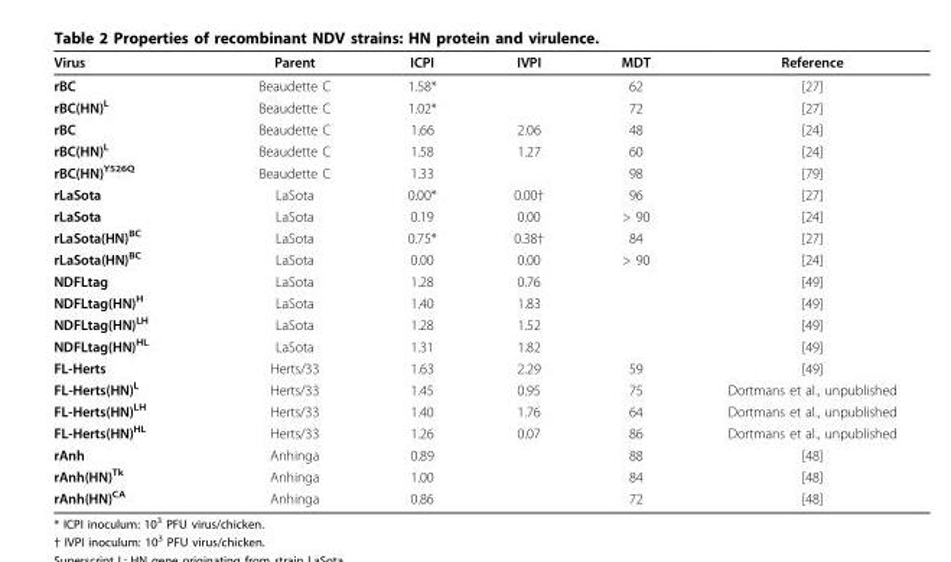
<table><thead><tr><td>Virus</td><td>Parent</td><td>ICPI</td><td>IVPI</td><td>MDT</td><td>Reference</td></tr></thead><tbody><tr><td>rBC</td><td>Beaudette C</td><td>1.58*</td><td></td><td>62</td><td>[27]</td></tr><tr><td>rBC(HN)<sup>L</sup></td><td>Beaudette C</td><td>1.02*</td><td></td><td>72</td><td>[27]</td></tr><tr><td>rBC</td><td>Beaudette C</td><td>1.66</td><td>2.06</td><td>48</td><td>[24]</td></tr><tr><td>rBC(HN)<sup>L</sup></td><td>Beaudette C</td><td>1.58</td><td>1.27</td><td>60</td><td>[24]</td></tr><tr><td>rBC(HN)<sup>Y526Q</sup></td><td>Beaudette C</td><td>1.33</td><td></td><td>98</td><td>[79]</td></tr><tr><td>rLaSota</td><td>LaSota</td><td>0.00*</td><td>0.00†</td><td>96</td><td>[27]</td></tr><tr><td>rLaSota</td><td>LaSota</td><td>0.19</td><td>0.00</td><td>&gt; 90</td><td>[24]</td></tr><tr><td>rLaSota(HN)<sup>BC</sup></td><td>LaSota</td><td>0.75*</td><td>0.38†</td><td>84</td><td>[27]</td></tr><tr><td>rLaSota(HN)<sup>BC</sup></td><td>LaSota</td><td>0.00</td><td>0.00</td><td>&gt; 90</td><td>[24]</td></tr><tr><td>NDFLtag</td><td>LaSota</td><td>1.28</td><td>0.76</td><td></td><td>[49]</td></tr><tr><td>NDFLtag(HN)<sup>H</sup></td><td>LaSota</td><td>1.40</td><td>1.83</td><td></td><td>[49]</td></tr><tr><td>NDFLtag(HN)<sup>LH</sup></td><td>LaSota</td><td>1.28</td><td>1.52</td><td></td><td>[49]</td></tr><tr><td>NDFLtag(HN)<sup>HL</sup></td><td>LaSota</td><td>1.31</td><td>1.82</td><td></td><td>[49]</td></tr><tr><td>FL-Herts</td><td>Herts/33</td><td>1.63</td><td>2.29</td><td>59</td><td>[49]</td></tr><tr><td>FL-Herts(HN)<sup>L</sup></td><td>Herts/33</td><td>1.45</td><td>0.95</td><td>75</td><td>Dortmans et al., unpublished</td></tr><tr><td>FL-Herts(HN)<sup>LH</sup></td><td>Herts/33</td><td>1.40</td><td>1.76</td><td>64</td><td>Dortmans et al., unpublished</td></tr><tr><td>FL-Herts(HN)<sup>HL</sup></td><td>Herts/33</td><td>1.26</td><td>0.07</td><td>86</td><td>Dortmans et al., unpublished</td></tr><tr><td>rAnh</td><td>Anhinga</td><td>0.89</td><td></td><td>88</td><td>[48]</td></tr><tr><td>rAnh(HN)<sup>Tk</sup></td><td>Anhinga</td><td>1.00</td><td></td><td>84</td><td>[48]</td></tr><tr><td>rAnh(HN)<sup>CA</sup></td><td>Anhinga</td><td>0.86</td><td></td><td>72</td><td>[48]</td></tr></tbody></table>